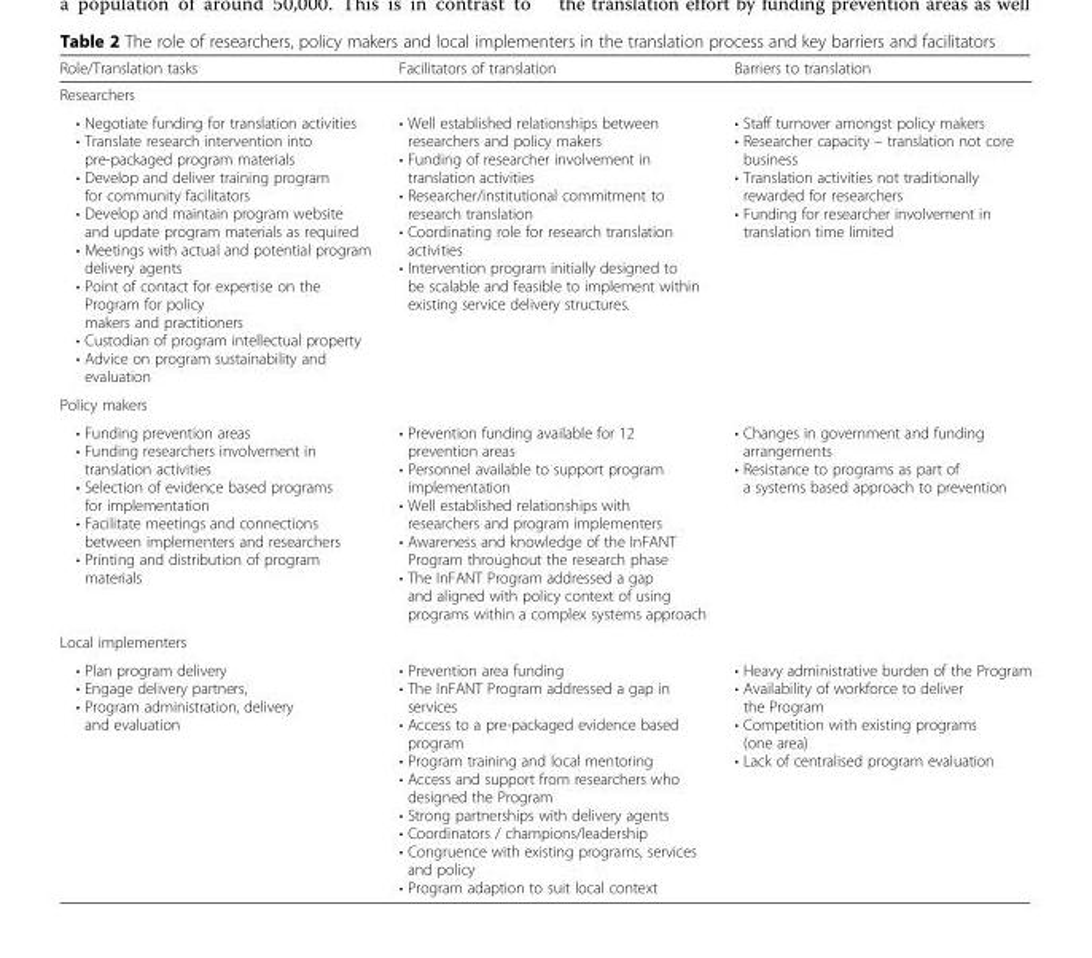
<table><thead><tr><td>Role/Translation tasks</td><td>Facilitators of translation</td><td>Barriers to translation</td></tr></thead><tbody><tr><td colspan="3">Researchers</td></tr><tr><td>• Negotiate funding for translation activities • Translate research intervention into pre-packaged program materials • Develop and deliver training program for community facilitators • Develop and maintain program website and update program materials as required • Meetings with actual and potential program delivery agents • Point of contact for expertise on the Program for policy makers and practitioners • Custodian of program intellectual property • Advice on program sustainability and evaluation</td><td>• Well established relationships between researchers and policy makers • Funding of researcher involvement in translation activities • Researcher/institutional commitment to research translation • Coordinating role for research translation activities • Intervention program initially designed to be scalable and feasible to implement within existing service delivery structures.</td><td>• Staff turnover amongst policy makers • Researcher capacity – translation not core business • Translation activities not traditionally rewarded for researchers • Funding for researcher involvement in translation time limited</td></tr><tr><td colspan="3">Policy makers</td></tr><tr><td>• Funding prevention areas • Funding researchers involvement in translation activities • Selection of evidence based programs for implementation • Facilitate meetings and connections between implementers and researchers • Printing and distribution of program materials</td><td>• Prevention funding available for 12 prevention areas • Personnel available to support program implementation • Well established relationships with researchers and program implementers • Awareness and knowledge of the InFANT Program throughout the research phase • The InFANT Program addressed a gap and aligned with policy context of using programs within a complex systems approach</td><td>• Changes in government and funding arrangements • Resistance to programs as part of a systems based approach to prevention</td></tr><tr><td colspan="3">Local implementers</td></tr><tr><td>• Plan program delivery • Engage delivery partners, • Program administration, delivery and evaluation</td><td>• Prevention area funding • The InFANT Program addressed a gap in services • Access to a pre-packaged evidence based program • Program training and local mentoring • Access and support from researchers who designed the Program • Strong partnerships with delivery agents • Coordinators / champions/leadership • Congruence with existing programs, services and policy • Program adaption to suit local context</td><td>• Heavy administrative burden of the Program • Availability of workforce to deliver the Program • Competition with existing programs (one area) • Lack of centralised program evaluation</td></tr></tbody></table>